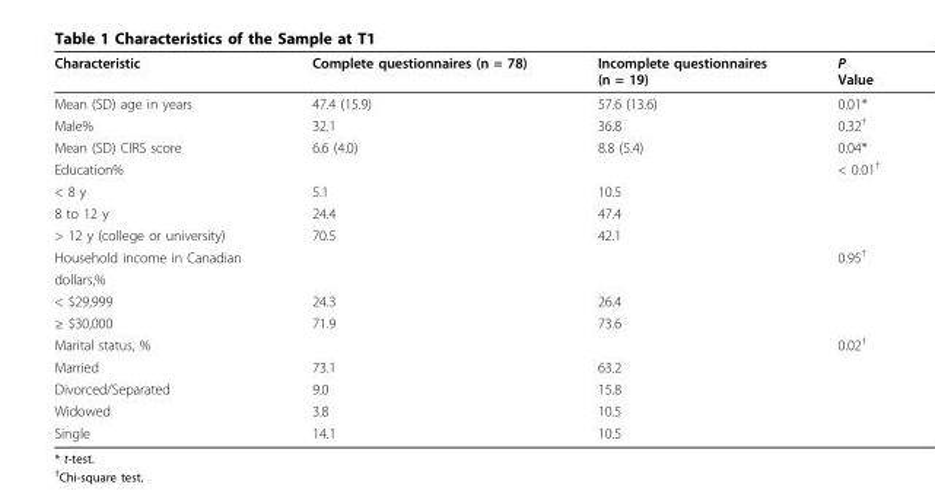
<table><thead><tr><td>Characteristic</td><td>Complete questionnaires (n = 78)</td><td>Incomplete questionnaires (n = 19)</td><td>P Value</td></tr></thead><tbody><tr><td>Mean (SD) age in years</td><td>47.4 (15.9)</td><td>57.6 (13.6)</td><td>0.01*</td></tr><tr><td>Male%</td><td>32.1</td><td>36.8</td><td>0.32<sup>†</sup></td></tr><tr><td>Mean (SD) CIRS score</td><td>6.6 (4.0)</td><td>8.8 (5.4)</td><td>0.04*</td></tr><tr><td>Education%</td><td></td><td></td><td>&lt; 0.01<sup>†</sup></td></tr><tr><td>&lt; 8 y</td><td>5.1</td><td>10.5</td><td></td></tr><tr><td>8 to 12 y</td><td>24.4</td><td>47.4</td><td></td></tr><tr><td>&gt; 12 y (college or university)</td><td>70.5</td><td>42.1</td><td></td></tr><tr><td>Household income in Canadian</td><td></td><td></td><td>0.95<sup>†</sup></td></tr><tr><td colspan="4">dollars,%</td></tr><tr><td>&lt; $29,999</td><td>24.3</td><td>26.4</td><td></td></tr><tr><td>≥ $30,000</td><td>71.9</td><td>73.6</td><td></td></tr><tr><td>Marital status, %</td><td></td><td></td><td>0.02<sup>†</sup></td></tr><tr><td>Married</td><td>73.1</td><td>63.2</td><td></td></tr><tr><td>Divorced/Separated</td><td>9.0</td><td>15.8</td><td></td></tr><tr><td>Widowed</td><td>3.8</td><td>10.5</td><td></td></tr><tr><td>Single</td><td>14.1</td><td>10.5</td><td></td></tr></tbody></table>